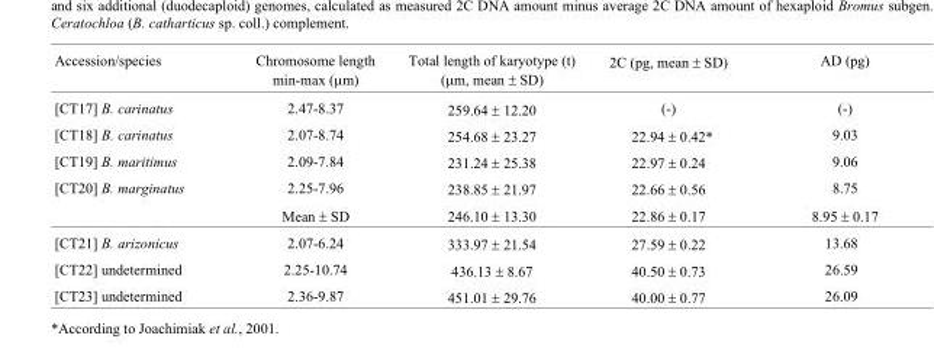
<table><thead><tr><td>Accession/species</td><td>Chromosome length min-max (μm)</td><td>Total length of karyotype (t) (μm, mean ± SD)</td><td>2C (pg, mean ± SD)</td><td>AD (pg)</td></tr></thead><tbody><tr><td>[CT17] B. carinatus</td><td>2.47-8.37</td><td>259.64 ± 12.20</td><td>(-)</td><td>(-)</td></tr><tr><td>[CT18] B. carinatus</td><td>2.07-8.74</td><td>254.68 ± 23.27</td><td>22.94 ± 0.42*</td><td>9.03</td></tr><tr><td>[CT19] B. maritimus</td><td>2.09-7.84</td><td>231.24 ± 25.38</td><td>22.97 ± 0.24</td><td>9.06</td></tr><tr><td rowspan="2">[CT20] B. marginatus</td><td>2.25-7.96</td><td>238.85 ± 21.97</td><td>22.66 ± 0.56</td><td>8.75</td></tr><tr><td>Mean ± SD</td><td>246.10 ± 13.30</td><td>22.86 ± 0.17</td><td>8.95 ± 0.17</td></tr><tr><td>[CT21] B. arizonicus</td><td>2.07-6.24</td><td>333.97 ± 21.54</td><td>27.59 ± 0.22</td><td>13.68</td></tr><tr><td>[CT22] undetermined</td><td>2.25-10.74</td><td>436.13 ± 8.67</td><td>40.50 ± 0.73</td><td>26.59</td></tr><tr><td>[CT23] undetermined</td><td>2.36-9.87</td><td>451.01 ± 29.76</td><td>40.00 ± 0.77</td><td>26.09</td></tr></tbody></table>